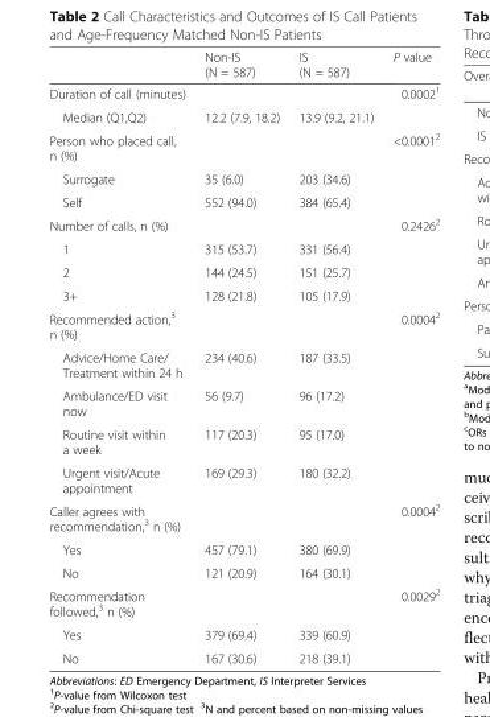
<table><thead><tr><td></td><td>Non-IS (N = 587)</td><td>IS (N = 587)</td><td>P value</td></tr></thead><tbody><tr><td>Duration of call (minutes)</td><td></td><td></td><td>0.0002<sup>1</sup></td></tr><tr><td>Median (Q1,Q2)</td><td>12.2 (7.9, 18.2)</td><td>13.9 (9.2, 21.1)</td><td></td></tr><tr><td>Person who placed call, n (%)</td><td></td><td></td><td>&lt;0.0001<sup>2</sup></td></tr><tr><td>Surrogate</td><td>35 (6.0)</td><td>203 (34.6)</td><td></td></tr><tr><td>Self</td><td>552 (94.0)</td><td>384 (65.4)</td><td></td></tr><tr><td>Number of calls, n (%)</td><td></td><td></td><td>0.2426<sup>2</sup></td></tr><tr><td>1</td><td>315 (53.7)</td><td>331 (56.4)</td><td></td></tr><tr><td>2</td><td>144 (24.5)</td><td>151 (25.7)</td><td></td></tr><tr><td>3+</td><td>128 (21.8)</td><td>105 (17.9)</td><td></td></tr><tr><td>Recommended action,<sup>3</sup> n (%)</td><td></td><td></td><td>0.0004<sup>2</sup></td></tr><tr><td>Advice/Home Care/ Treatment within 24 h</td><td>234 (40.6)</td><td>187 (33.5)</td><td></td></tr><tr><td>Ambulance/ED visit now</td><td>56 (9.7)</td><td>96 (17.2)</td><td></td></tr><tr><td>Routine visit within a week</td><td>117 (20.3)</td><td>95 (17.0)</td><td></td></tr><tr><td>Urgent visit/Acute appointment</td><td>169 (29.3)</td><td>180 (32.2)</td><td></td></tr><tr><td>Caller agrees with recommendation,<sup>3</sup> n (%)</td><td></td><td></td><td>0.0004<sup>2</sup></td></tr><tr><td>Yes</td><td>457 (79.1)</td><td>380 (69.9)</td><td></td></tr><tr><td>No</td><td>121 (20.9)</td><td>164 (30.1)</td><td></td></tr><tr><td>Recommendation followed,<sup>3</sup> n (%)</td><td></td><td></td><td>0.0029<sup>2</sup></td></tr><tr><td>Yes</td><td>379 (69.4)</td><td>339 (60.9)</td><td></td></tr><tr><td>No</td><td>167 (30.6)</td><td>218 (39.1)</td><td></td></tr></tbody></table>